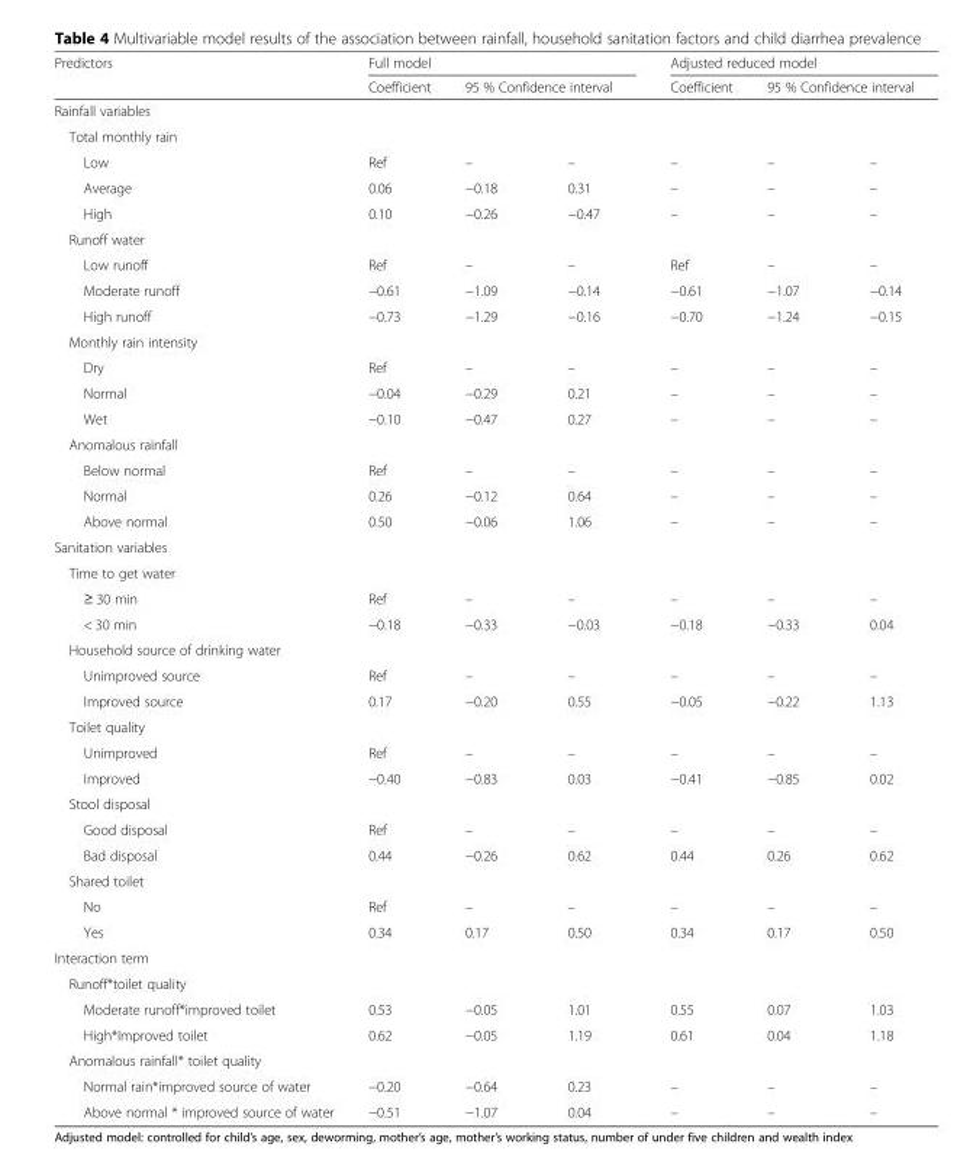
<table><thead><tr><td rowspan="2">Predictors</td><td colspan="3">Full model</td><td colspan="3">Adjusted reduced model</td></tr><tr><td>Coefficient</td><td colspan="2">95 % Confidence interval</td><td>Coefficient</td><td colspan="2">95 % Confidence interval</td></tr><tr><td rowspan="2" colspan="7">Rainfall variables Total monthly rain</td></tr><tr></tr><tr><td>Low</td><td>Ref</td><td>–</td><td>–</td><td>–</td><td>–</td><td>–</td></tr></thead><tbody><tr><td>Average</td><td>0.06</td><td>−0.18</td><td>0.31</td><td>–</td><td>–</td><td>–</td></tr><tr><td>High</td><td>0.10</td><td>−0.26</td><td>−0.47</td><td>–</td><td>–</td><td>–</td></tr><tr><td colspan="7">Runoff water</td></tr><tr><td>Low runoff</td><td>Ref</td><td>–</td><td>–</td><td>Ref</td><td>–</td><td>–</td></tr><tr><td>Moderate runoff</td><td>−0.61</td><td>−1.09</td><td>−0.14</td><td>−0.61</td><td>−1.07</td><td>−0.14</td></tr><tr><td>High runoff</td><td>−0.73</td><td>−1.29</td><td>−0.16</td><td>−0.70</td><td>−1.24</td><td>−0.15</td></tr><tr><td colspan="7">Monthly rain intensity</td></tr><tr><td>Dry</td><td>Ref</td><td>–</td><td>–</td><td>–</td><td>–</td><td>–</td></tr><tr><td>Normal</td><td>−0.04</td><td>−0.29</td><td>0.21</td><td>–</td><td>–</td><td>–</td></tr><tr><td>Wet</td><td>−0.10</td><td>−0.47</td><td>0.27</td><td>–</td><td>–</td><td>–</td></tr><tr><td colspan="7">Anomalous rainfall</td></tr><tr><td>Below normal</td><td>Ref</td><td>–</td><td>–</td><td>–</td><td>–</td><td>–</td></tr><tr><td>Normal</td><td>0.26</td><td>−0.12</td><td>0.64</td><td>–</td><td>–</td><td>–</td></tr><tr><td>Above normal</td><td>0.50</td><td>−0.06</td><td>1.06</td><td>–</td><td>–</td><td>–</td></tr><tr><td colspan="7">Sanitation variables</td></tr><tr><td colspan="7">Time to get water</td></tr><tr><td>≥ 30 min</td><td>Ref</td><td>–</td><td>–</td><td>–</td><td>–</td><td>–</td></tr><tr><td>&lt; 30 min</td><td>−0.18</td><td>−0.33</td><td>−0.03</td><td>−0.18</td><td>−0.33</td><td>0.04</td></tr><tr><td colspan="7">Household source of drinking water</td></tr><tr><td>Unimproved source</td><td>Ref</td><td>–</td><td>–</td><td>–</td><td>–</td><td>–</td></tr><tr><td>Improved source</td><td>0.17</td><td>−0.20</td><td>0.55</td><td>−0.05</td><td>−0.22</td><td>1.13</td></tr><tr><td colspan="7">Toilet quality</td></tr><tr><td>Unimproved</td><td>Ref</td><td>–</td><td>–</td><td>–</td><td>–</td><td>–</td></tr><tr><td>Improved</td><td>−0.40</td><td>−0.83</td><td>0.03</td><td>−0.41</td><td>−0.85</td><td>0.02</td></tr><tr><td colspan="7">Stool disposal</td></tr><tr><td>Good disposal</td><td>Ref</td><td>–</td><td>–</td><td>–</td><td>–</td><td>–</td></tr><tr><td>Bad disposal</td><td>0.44</td><td>−0.26</td><td>0.62</td><td>0.44</td><td>0.26</td><td>0.62</td></tr><tr><td colspan="7">Shared toilet</td></tr><tr><td>No</td><td>Ref</td><td>–</td><td>–</td><td>–</td><td>–</td><td>–</td></tr><tr><td>Yes</td><td>0.34</td><td>0.17</td><td>0.50</td><td>0.34</td><td>0.17</td><td>0.50</td></tr><tr><td colspan="7">Interaction term</td></tr><tr><td colspan="7">Runoff*toilet quality</td></tr><tr><td>Moderate runoff*improved toilet</td><td>0.53</td><td>−0.05</td><td>1.01</td><td>0.55</td><td>0.07</td><td>1.03</td></tr><tr><td>High*Improved toilet</td><td>0.62</td><td>−0.05</td><td>1.19</td><td>0.61</td><td>0.04</td><td>1.18</td></tr><tr><td colspan="7">Anomalous rainfall* toilet quality</td></tr><tr><td>Normal rain*improved source of water</td><td>−0.20</td><td>−0.64</td><td>0.23</td><td>–</td><td>–</td><td>–</td></tr><tr><td>Above normal * improved source of water</td><td>−0.51</td><td>−1.07</td><td>0.04</td><td>–</td><td>–</td><td>–</td></tr></tbody></table>